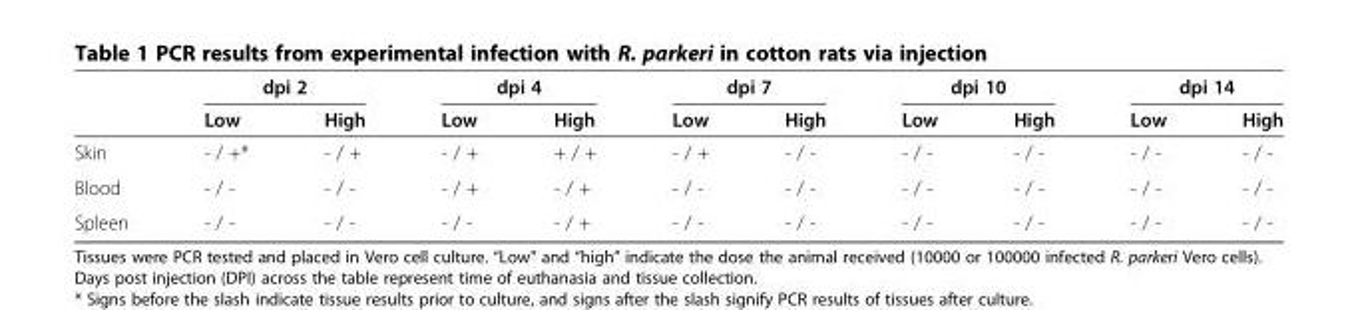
<table><thead><tr><td rowspan="2"></td><td colspan="2">dpi 2</td><td colspan="2">dpi 4</td><td colspan="2">dpi 7</td><td colspan="2">dpi 10</td><td colspan="2">dpi 14</td></tr><tr><td>Low</td><td>High</td><td>Low</td><td>High</td><td>Low</td><td>High</td><td>Low</td><td>High</td><td>Low</td><td>High</td></tr></thead><tbody><tr><td>Skin</td><td>- / +*</td><td>- / +</td><td>- / +</td><td>+ / +</td><td>- / +</td><td>- / -</td><td>- / -</td><td>- / -</td><td>- / -</td><td>- / -</td></tr><tr><td>Blood</td><td>- / -</td><td>- / -</td><td>- / +</td><td>- / +</td><td>- / -</td><td>- / -</td><td>- / -</td><td>- / -</td><td>- / -</td><td>- / -</td></tr><tr><td>Spleen</td><td>- / -</td><td>- / -</td><td>- / -</td><td>- / +</td><td>- / -</td><td>- / -</td><td>- / -</td><td>- / -</td><td>- / -</td><td>- / -</td></tr></tbody></table>